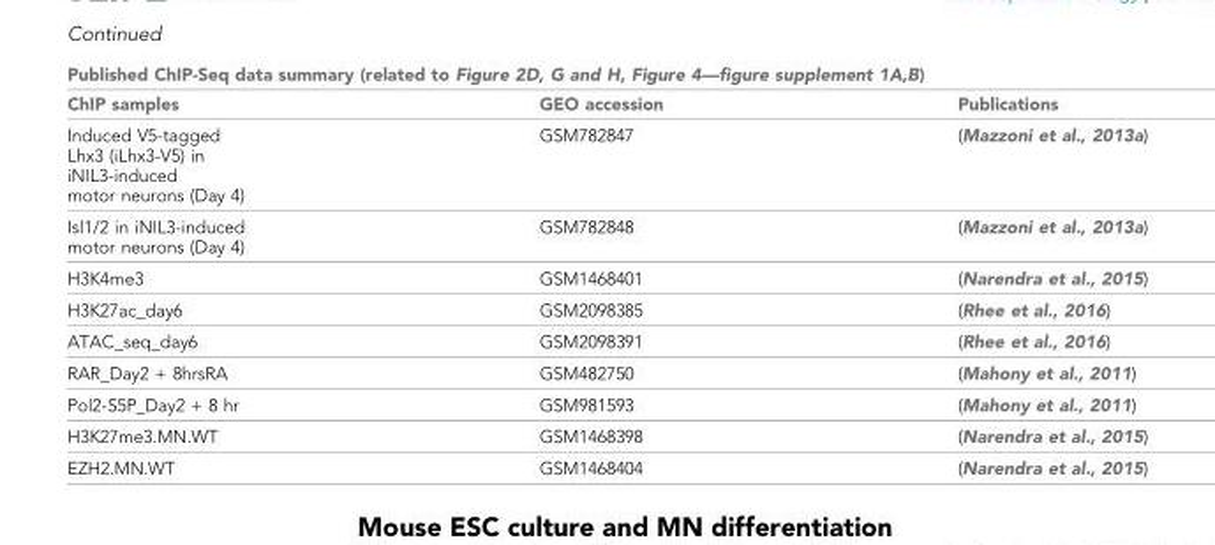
<table><thead><tr><td colspan="3">Published ChIP-Seq data summary (related to Figure 2D, G and H, Figure 4—figure supplement 1A,B)</td></tr><tr><td>ChIP samples</td><td>GEO accession</td><td>Publications</td></tr></thead><tbody><tr><td>Induced V5-tagged Lhx3 (iLhx3-V5) in iNIL3-induced motor neurons (Day 4)</td><td>GSM782847</td><td>(Mazzoni et al., 2013a)</td></tr><tr><td>Isl1/2 in iNIL3-induced motor neurons (Day 4)</td><td>GSM782848</td><td>(Mazzoni et al., 2013a)</td></tr><tr><td>H3K4me3</td><td>GSM1468401</td><td>(Narendra et al., 2015)</td></tr><tr><td>H3K27ac_day6</td><td>GSM2098385</td><td>(Rhee et al., 2016)</td></tr><tr><td>ATAC_seq_day6</td><td>GSM2098391</td><td>(Rhee et al., 2016)</td></tr><tr><td>RAR_Day2 + 8hrsRA</td><td>GSM482750</td><td>(Mahony et al., 2011)</td></tr><tr><td>Pol2-S5P_Day2 + 8 hr</td><td>GSM981593</td><td>(Mahony et al., 2011)</td></tr><tr><td>H3K27me3.MN.WT</td><td>GSM1468398</td><td>(Narendra et al., 2015)</td></tr><tr><td>EZH2.MN.WT</td><td>GSM1468404</td><td>(Narendra et al., 2015)</td></tr></tbody></table>